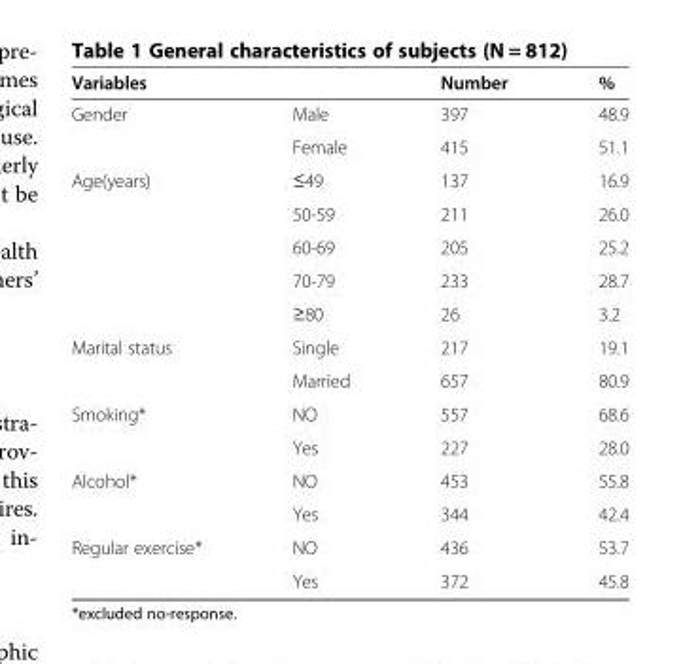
<table><thead><tr><td>Variables</td><td></td><td>Number</td><td>%</td></tr></thead><tbody><tr><td rowspan="2">Gender</td><td>Male</td><td>397</td><td>48.9</td></tr><tr><td>Female</td><td>415</td><td>51.1</td></tr><tr><td rowspan="5">Age(years)</td><td>≤49</td><td>137</td><td>16.9</td></tr><tr><td>50-59</td><td>211</td><td>26.0</td></tr><tr><td>60-69</td><td>205</td><td>25.2</td></tr><tr><td>70-79</td><td>233</td><td>28.7</td></tr><tr><td>≥80</td><td>26</td><td>3.2</td></tr><tr><td rowspan="2">Marital status</td><td>Single</td><td>217</td><td>19.1</td></tr><tr><td>Married</td><td>657</td><td>80.9</td></tr><tr><td rowspan="2">Smoking*</td><td>NO</td><td>557</td><td>68.6</td></tr><tr><td>Yes</td><td>227</td><td>28.0</td></tr><tr><td rowspan="2">Alcohol*</td><td>NO</td><td>453</td><td>55.8</td></tr><tr><td>Yes</td><td>344</td><td>42.4</td></tr><tr><td rowspan="2">Regular exercise*</td><td>NO</td><td>436</td><td>53.7</td></tr><tr><td>Yes</td><td>372</td><td>45.8</td></tr></tbody></table>